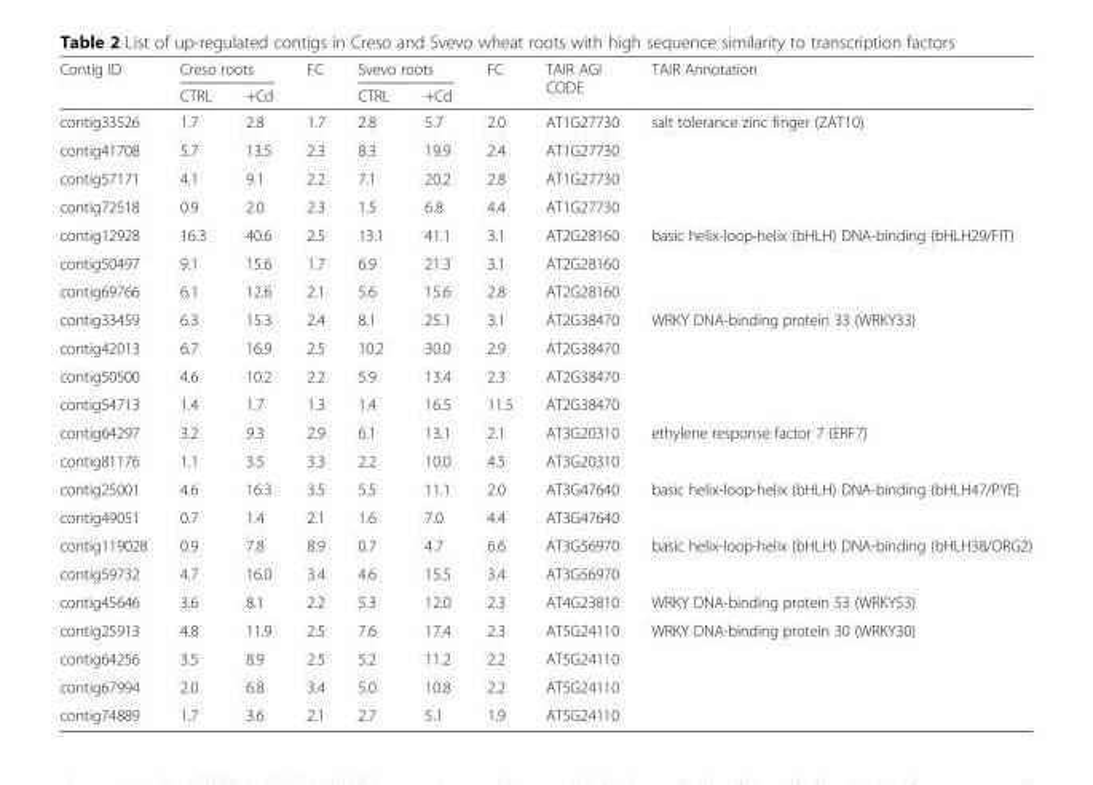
<table><thead><tr><td rowspan="2">Contig ID</td><td colspan="2">Creso roots</td><td rowspan="2">FC</td><td colspan="2">Svevo roots</td><td rowspan="2">FC</td><td rowspan="2">TAIR AGI CODE</td><td rowspan="2">TAIR Annotation</td></tr><tr><td>CTRL</td><td>+Cd</td><td>CTRL</td><td>+Cd</td></tr></thead><tbody><tr><td>contig33526</td><td>1.7</td><td>2.8</td><td>1.7</td><td>2.8</td><td>5.7</td><td>2.0</td><td>AT1G27730</td><td rowspan="4">salt tolerance zinc finger (ZAT10)</td></tr><tr><td>contig41708</td><td>5.7</td><td>13.5</td><td>2.3</td><td>8.3</td><td>19.9</td><td>2.4</td><td>AT1G27730</td></tr><tr><td>contig57171</td><td>4.1</td><td>9.1</td><td>2.2</td><td>7.1</td><td>20.2</td><td>2.8</td><td>AT1G27730</td></tr><tr><td>contig72518</td><td>0.9</td><td>2.0</td><td>2.3</td><td>1.5</td><td>6.8</td><td>4.4</td><td>AT1G27730</td></tr><tr><td>contig12928</td><td>16.3</td><td>40.6</td><td>2.5</td><td>13.1</td><td>41.1</td><td>3.1</td><td>AT2G28160</td><td rowspan="3">basic helix-loop-helix (bHLH) DNA-binding (bHLH29/FIT)</td></tr><tr><td>contig50497</td><td>9.1</td><td>15.6</td><td>1.7</td><td>6.9</td><td>21.3</td><td>3.1</td><td>AT2G28160</td></tr><tr><td>contig69766</td><td>6.1</td><td>12.6</td><td>2.1</td><td>5.6</td><td>15.6</td><td>2.8</td><td>AT2G28160</td></tr><tr><td>contig33459</td><td>6.3</td><td>15.3</td><td>2.4</td><td>8.1</td><td>25.1</td><td>3.1</td><td>AT2G38470</td><td rowspan="4">WRKY DNA-binding protein 33 (WRKY33)</td></tr><tr><td>contig42013</td><td>6.7</td><td>16.9</td><td>2.5</td><td>10.2</td><td>30.0</td><td>2.9</td><td>AT2G38470</td></tr><tr><td>contig50500</td><td>4.6</td><td>10.2</td><td>2.2</td><td>5.9</td><td>13.4</td><td>2.3</td><td>AT2G38470</td></tr><tr><td>contig54713</td><td>1.4</td><td>1.7</td><td>1.3</td><td>1.4</td><td>16.5</td><td>11.5</td><td>AT2G38470</td></tr><tr><td>contig64297</td><td>3.2</td><td>9.3</td><td>2.9</td><td>6.1</td><td>13.1</td><td>2.1</td><td>AT3G20310</td><td rowspan="2">ethylene response factor 7 (ERF7)</td></tr><tr><td>contig81176</td><td>1.1</td><td>3.5</td><td>3.3</td><td>2.2</td><td>10.0</td><td>4.5</td><td>AT3G20310</td></tr><tr><td>contig25001</td><td>4.6</td><td>16.3</td><td>3.5</td><td>5.5</td><td>11.1</td><td>2.0</td><td>AT3G47640</td><td rowspan="2">basic helix-loop-helix (bHLH) DNA-binding (bHLH47/PYE)</td></tr><tr><td>contig49051</td><td>0.7</td><td>1.4</td><td>2.1</td><td>1.6</td><td>7.0</td><td>4.4</td><td>AT3G47640</td></tr><tr><td>contig119028</td><td>0.9</td><td>7.8</td><td>8.9</td><td>0.7</td><td>4.7</td><td>6.6</td><td>AT3G56970</td><td rowspan="2">basic helix-loop-helix (bHLH) DNA-binding (bHLH38/ORG2)</td></tr><tr><td>contig59732</td><td>4.7</td><td>16.0</td><td>3.4</td><td>4.6</td><td>15.5</td><td>3.4</td><td>AT3G56970</td></tr><tr><td>contig45646</td><td>3.6</td><td>8.1</td><td>2.2</td><td>5.3</td><td>12.0</td><td>2.3</td><td>AT4G23810</td><td>WRKY DNA-binding protein 53 (WRKY53)</td></tr><tr><td>contig25913</td><td>4.8</td><td>11.9</td><td>2.5</td><td>7.6</td><td>17.4</td><td>2.3</td><td>AT5G24110</td><td rowspan="4">WRKY DNA-binding protein 30 (WRKY30)</td></tr><tr><td>contig64256</td><td>3.5</td><td>8.9</td><td>2.5</td><td>5.2</td><td>11.2</td><td>2.2</td><td>AT5G24110</td></tr><tr><td>contig67994</td><td>2.0</td><td>6.8</td><td>3.4</td><td>5.0</td><td>10.8</td><td>2.2</td><td>AT5G24110</td></tr><tr><td>contig74889</td><td>1.7</td><td>3.6</td><td>2.1</td><td>2.7</td><td>5.1</td><td>1.9</td><td>AT5G24110</td></tr></tbody></table>